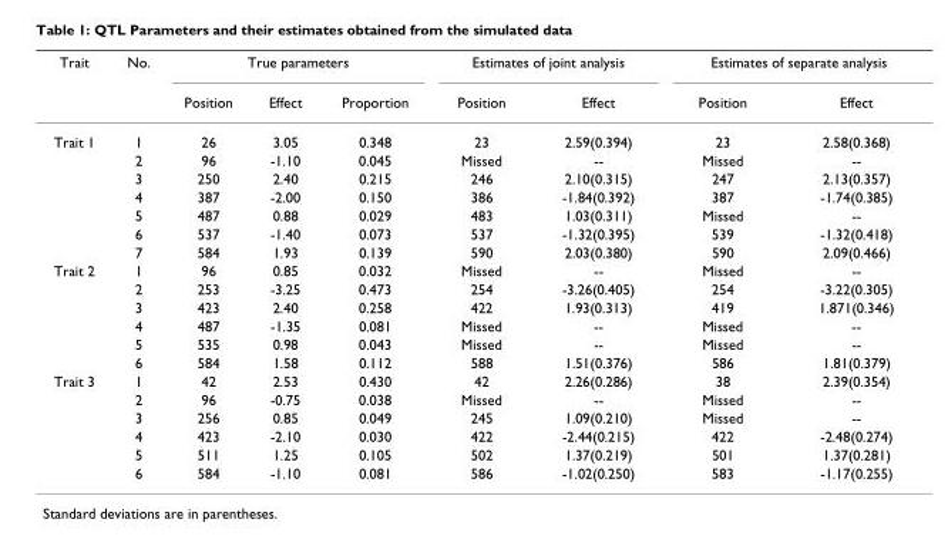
<table><thead><tr><td rowspan="2">Trait</td><td rowspan="2">No.</td><td colspan="3">True parameters</td><td colspan="2">Estimates of joint analysis</td><td colspan="2">Estimates of separate analysis</td></tr><tr><td>Position</td><td>Effect</td><td>Proportion</td><td>Position</td><td>Effect</td><td>Position</td><td>Effect</td></tr></thead><tbody><tr><td rowspan="7">Trait 1</td><td>1</td><td>26</td><td>3.05</td><td>0.348</td><td>23</td><td>2.59(0.394)</td><td>23</td><td>2.58(0.368)</td></tr><tr><td>2</td><td>96</td><td>-1.10</td><td>0.045</td><td>Missed</td><td>--</td><td>Missed</td><td>--</td></tr><tr><td>3</td><td>250</td><td>2.40</td><td>0.215</td><td>246</td><td>2.10(0.315)</td><td>247</td><td>2.13(0.357)</td></tr><tr><td>4</td><td>387</td><td>-2.00</td><td>0.150</td><td>386</td><td>-1.84(0.392)</td><td>387</td><td>-1.74(0.385)</td></tr><tr><td>5</td><td>487</td><td>0.88</td><td>0.029</td><td>483</td><td>1.03(0.311)</td><td>Missed</td><td>--</td></tr><tr><td>6</td><td>537</td><td>-1.40</td><td>0.073</td><td>537</td><td>-1.32(0.395)</td><td>539</td><td>-1.32(0.418)</td></tr><tr><td>7</td><td>584</td><td>1.93</td><td>0.139</td><td>590</td><td>2.03(0.380)</td><td>590</td><td>2.09(0.466)</td></tr><tr><td rowspan="6">Trait 2</td><td>1</td><td>96</td><td>0.85</td><td>0.032</td><td>Missed</td><td>--</td><td>Missed</td><td>--</td></tr><tr><td>2</td><td>253</td><td>-3.25</td><td>0.473</td><td>254</td><td>-3.26(0.405)</td><td>254</td><td>-3.22(0.305)</td></tr><tr><td>3</td><td>423</td><td>2.40</td><td>0.258</td><td>422</td><td>1.93(0.313)</td><td>419</td><td>1.871(0.346)</td></tr><tr><td>4</td><td>487</td><td>-1.35</td><td>0.081</td><td>Missed</td><td>--</td><td>Missed</td><td>--</td></tr><tr><td>5</td><td>535</td><td>0.98</td><td>0.043</td><td>Missed</td><td>--</td><td>Missed</td><td>--</td></tr><tr><td>6</td><td>584</td><td>1.58</td><td>0.112</td><td>588</td><td>1.51(0.376)</td><td>586</td><td>1.81(0.379)</td></tr><tr><td rowspan="6">Trait 3</td><td>1</td><td>42</td><td>2.53</td><td>0.430</td><td>42</td><td>2.26(0.286)</td><td>38</td><td>2.39(0.354)</td></tr><tr><td>2</td><td>96</td><td>-0.75</td><td>0.038</td><td>Missed</td><td>--</td><td>Missed</td><td>--</td></tr><tr><td>3</td><td>256</td><td>0.85</td><td>0.049</td><td>245</td><td>1.09(0.210)</td><td>Missed</td><td>--</td></tr><tr><td>4</td><td>423</td><td>-2.10</td><td>0.030</td><td>422</td><td>-2.44(0.215)</td><td>422</td><td>-2.48(0.274)</td></tr><tr><td>5</td><td>511</td><td>1.25</td><td>0.105</td><td>502</td><td>1.37(0.219)</td><td>501</td><td>1.37(0.281)</td></tr><tr><td>6</td><td>584</td><td>-1.10</td><td>0.081</td><td>586</td><td>-1.02(0.250)</td><td>583</td><td>-1.17(0.255)</td></tr></tbody></table>